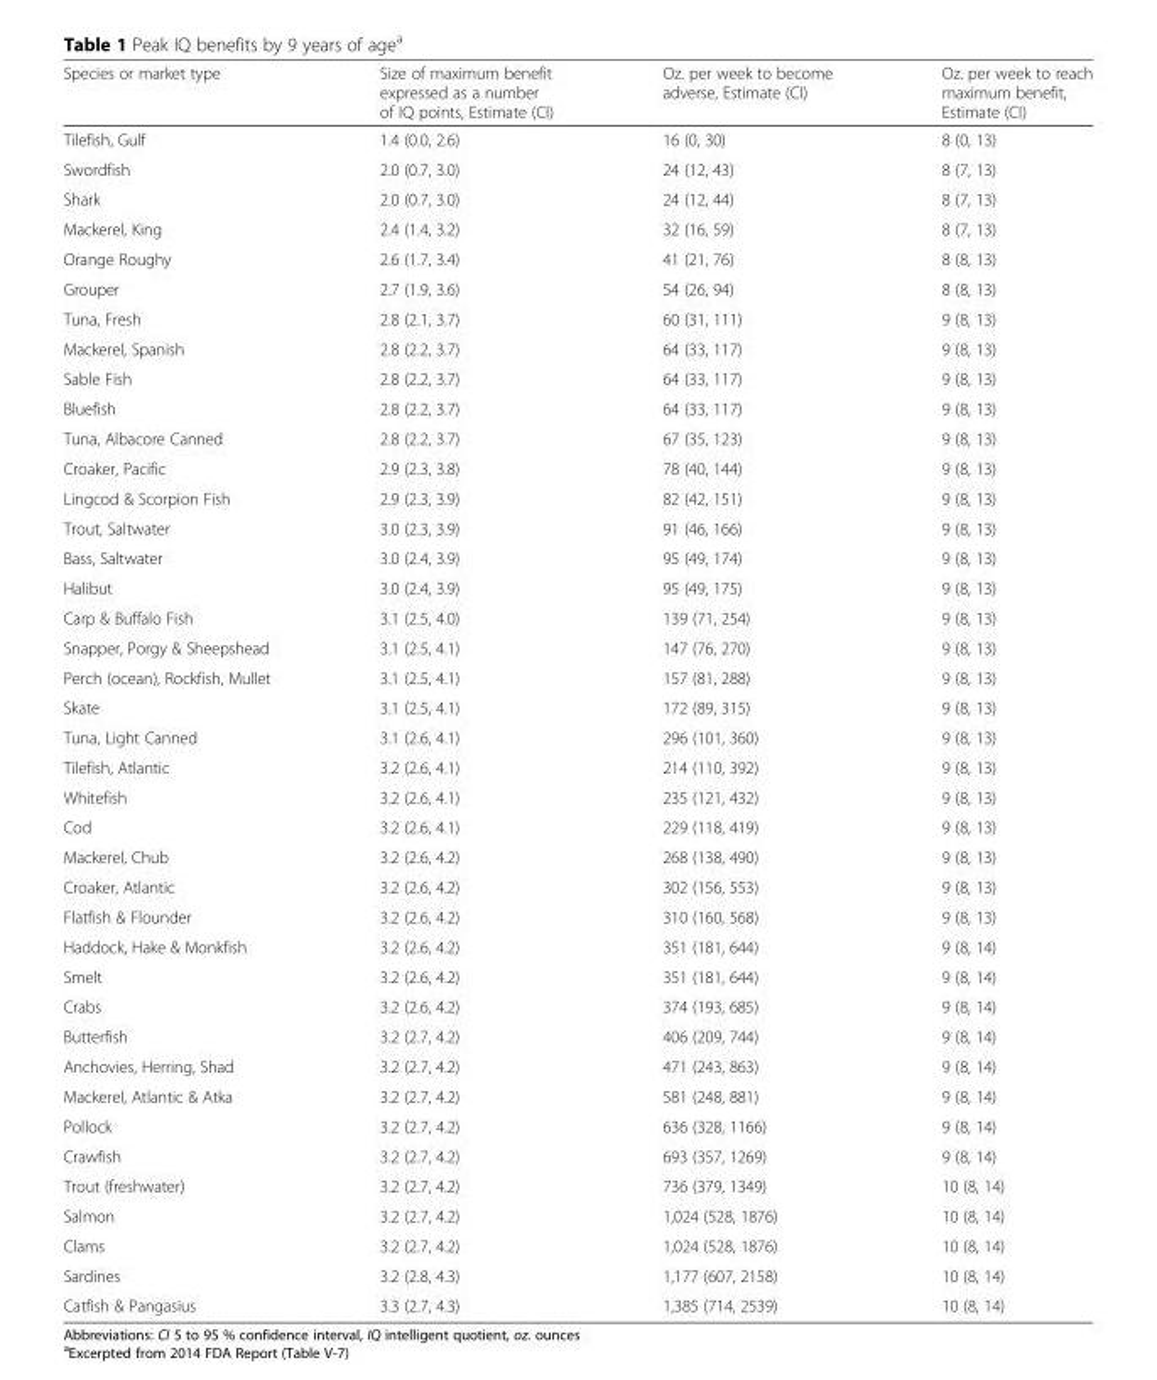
<table><thead><tr><td>Species or market type</td><td>Size of maximum benefit expressed as a number of IQ points, Estimate (CI)</td><td>Oz. per week to become adverse, Estimate (CI)</td><td>Oz. per week to reach maximum benefit, Estimate (CI)</td></tr></thead><tbody><tr><td>Tilefish, Gulf</td><td>1.4 (0.0, 2.6)</td><td>16 (0, 30)</td><td>8 (0, 13)</td></tr><tr><td>Swordfish</td><td>2.0 (0.7, 3.0)</td><td>24 (12, 43)</td><td>8 (7, 13)</td></tr><tr><td>Shark</td><td>2.0 (0.7, 3.0)</td><td>24 (12, 44)</td><td>8 (7, 13)</td></tr><tr><td>Mackerel, King</td><td>2.4 (1.4, 3.2)</td><td>32 (16, 59)</td><td>8 (7, 13)</td></tr><tr><td>Orange Roughy</td><td>2.6 (1.7, 3.4)</td><td>41 (21, 76)</td><td>8 (8, 13)</td></tr><tr><td>Grouper</td><td>2.7 (1.9, 3.6)</td><td>54 (26, 94)</td><td>8 (8, 13)</td></tr><tr><td>Tuna, Fresh</td><td>2.8 (2.1, 3.7)</td><td>60 (31, 111)</td><td>9 (8, 13)</td></tr><tr><td>Mackerel, Spanish</td><td>2.8 (2.2, 3.7)</td><td>64 (33, 117)</td><td>9 (8, 13)</td></tr><tr><td>Sable Fish</td><td>2.8 (2.2, 3.7)</td><td>64 (33, 117)</td><td>9 (8, 13)</td></tr><tr><td>Bluefish</td><td>2.8 (2.2, 3.7)</td><td>64 (33, 117)</td><td>9 (8, 13)</td></tr><tr><td>Tuna, Albacore Canned</td><td>2.8 (2.2, 3.7)</td><td>67 (35, 123)</td><td>9 (8, 13)</td></tr><tr><td>Croaker, Pacific</td><td>2.9 (2.3, 3.8)</td><td>78 (40, 144)</td><td>9 (8, 13)</td></tr><tr><td>Lingcod &amp; Scorpion Fish</td><td>2.9 (2.3, 3.9)</td><td>82 (42, 151)</td><td>9 (8, 13)</td></tr><tr><td>Trout, Saltwater</td><td>3.0 (2.3, 3.9)</td><td>91 (46, 166)</td><td>9 (8, 13)</td></tr><tr><td>Bass, Saltwater</td><td>3.0 (2.4, 3.9)</td><td>95 (49, 174)</td><td>9 (8, 13)</td></tr><tr><td>Halibut</td><td>3.0 (2.4, 3.9)</td><td>95 (49, 175)</td><td>9 (8, 13)</td></tr><tr><td>Carp &amp; Buffalo Fish</td><td>3.1 (2.5, 4.0)</td><td>139 (71, 254)</td><td>9 (8, 13)</td></tr><tr><td>Snapper, Porgy &amp; Sheepshead</td><td>3.1 (2.5, 4.1)</td><td>147 (76, 270)</td><td>9 (8, 13)</td></tr><tr><td>Perch (ocean), Rockfish, Mullet</td><td>3.1 (2.5, 4.1)</td><td>157 (81, 288)</td><td>9 (8, 13)</td></tr><tr><td>Skate</td><td>3.1 (2.5, 4.1)</td><td>172 (89, 315)</td><td>9 (8, 13)</td></tr><tr><td>Tuna, Light Canned</td><td>3.1 (2.6, 4.1)</td><td>296 (101, 360)</td><td>9 (8, 13)</td></tr><tr><td>Tilefish, Atlantic</td><td>3.2 (2.6, 4.1)</td><td>214 (110, 392)</td><td>9 (8, 13)</td></tr><tr><td>Whitefish</td><td>3.2 (2.6, 4.1)</td><td>235 (121, 432)</td><td>9 (8, 13)</td></tr><tr><td>Cod</td><td>3.2 (2.6, 4.1)</td><td>229 (118, 419)</td><td>9 (8, 13)</td></tr><tr><td>Mackerel, Chub</td><td>3.2 (2.6, 4.2)</td><td>268 (138, 490)</td><td>9 (8, 13)</td></tr><tr><td>Croaker, Atlantic</td><td>3.2 (2.6, 4.2)</td><td>302 (156, 553)</td><td>9 (8, 13)</td></tr><tr><td>Flatfish &amp; Flounder</td><td>3.2 (2.6, 4.2)</td><td>310 (160, 568)</td><td>9 (8, 13)</td></tr><tr><td>Haddock, Hake &amp; Monkfish</td><td>3.2 (2.6, 4.2)</td><td>351 (181, 644)</td><td>9 (8, 14)</td></tr><tr><td>Smelt</td><td>3.2 (2.6, 4.2)</td><td>351 (181, 644)</td><td>9 (8, 14)</td></tr><tr><td>Crabs</td><td>3.2 (2.6, 4.2)</td><td>374 (193, 685)</td><td>9 (8, 14)</td></tr><tr><td>Butterfish</td><td>3.2 (2.7, 4.2)</td><td>406 (209, 744)</td><td>9 (8, 14)</td></tr><tr><td>Anchovies, Herring, Shad</td><td>3.2 (2.7, 4.2)</td><td>471 (243, 863)</td><td>9 (8, 14)</td></tr><tr><td>Mackerel, Atlantic &amp; Atka</td><td>3.2 (2.7, 4.2)</td><td>581 (248, 881)</td><td>9 (8, 14)</td></tr><tr><td>Pollock</td><td>3.2 (2.7, 4.2)</td><td>636 (328, 1166)</td><td>9 (8, 14)</td></tr><tr><td>Crawfish</td><td>3.2 (2.7, 4.2)</td><td>693 (357, 1269)</td><td>9 (8, 14)</td></tr><tr><td>Trout (freshwater)</td><td>3.2 (2.7, 4.2)</td><td>736 (379, 1349)</td><td>10 (8, 14)</td></tr><tr><td>Salmon</td><td>3.2 (2.7, 4.2)</td><td>1,024 (528, 1876)</td><td>10 (8, 14)</td></tr><tr><td>Clams</td><td>3.2 (2.7, 4.2)</td><td>1,024 (528, 1876)</td><td>10 (8, 14)</td></tr><tr><td>Sardines</td><td>3.2 (2.8, 4.3)</td><td>1,177 (607, 2158)</td><td>10 (8, 14)</td></tr><tr><td>Catfish &amp; Pangasius</td><td>3.3 (2.7, 4.3)</td><td>1,385 (714, 2539)</td><td>10 (8, 14)</td></tr></tbody></table>